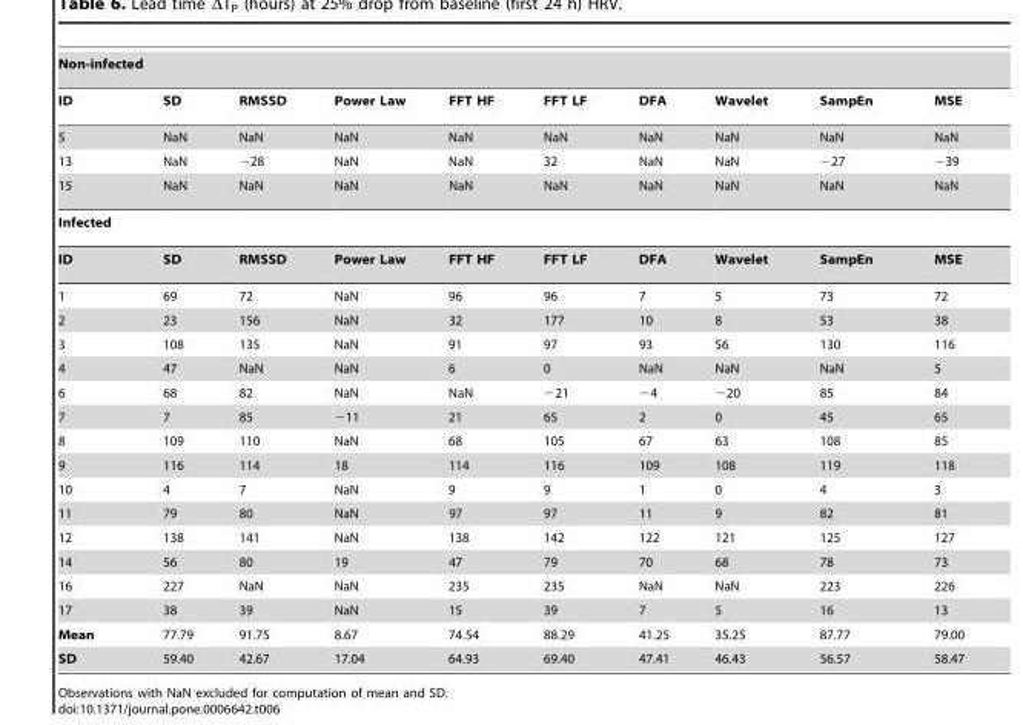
<table><tbody><tr><td colspan="10">Non-infected</td></tr><tr><td>ID</td><td>SD</td><td>RMSSD</td><td>Power Law</td><td>FFT HF</td><td>FFT LF</td><td>DFA</td><td>Wavelet</td><td>SampEn</td><td>MSE</td></tr><tr><td>5</td><td>NaN</td><td>NaN</td><td>NaN</td><td>NaN</td><td>NaN</td><td>NaN</td><td>NaN</td><td>NaN</td><td>NaN</td></tr><tr><td>13</td><td>NaN</td><td>−28</td><td>NaN</td><td>NaN</td><td>32</td><td>NaN</td><td>NaN</td><td>−27</td><td>−39</td></tr><tr><td>15</td><td>NaN</td><td>NaN</td><td>NaN</td><td>NaN</td><td>NaN</td><td>NaN</td><td>NaN</td><td>NaN</td><td>NaN</td></tr><tr><td colspan="10">Infected</td></tr><tr><td>ID</td><td>SD</td><td>RMSSD</td><td>Power Law</td><td>FFT HF</td><td>FFT LF</td><td>DFA</td><td>Wavelet</td><td>SampEn</td><td>MSE</td></tr><tr><td>1</td><td>69</td><td>72</td><td>NaN</td><td>96</td><td>96</td><td>7</td><td>5</td><td>73</td><td>72</td></tr><tr><td>2</td><td>23</td><td>156</td><td>NaN</td><td>32</td><td>177</td><td>10</td><td>8</td><td>53</td><td>38</td></tr><tr><td>3</td><td>108</td><td>135</td><td>NaN</td><td>91</td><td>97</td><td>93</td><td>56</td><td>130</td><td>116</td></tr><tr><td>4</td><td>47</td><td>NaN</td><td>NaN</td><td>6</td><td>0</td><td>NaN</td><td>NaN</td><td>NaN</td><td>5</td></tr><tr><td>6</td><td>68</td><td>82</td><td>NaN</td><td>NaN</td><td>−21</td><td>−4</td><td>−20</td><td>85</td><td>84</td></tr><tr><td>7</td><td>7</td><td>85</td><td>−11</td><td>21</td><td>65</td><td>2</td><td>0</td><td>45</td><td>65</td></tr><tr><td>8</td><td>109</td><td>110</td><td>NaN</td><td>68</td><td>105</td><td>67</td><td>63</td><td>108</td><td>85</td></tr><tr><td>9</td><td>116</td><td>114</td><td>18</td><td>114</td><td>116</td><td>109</td><td>108</td><td>119</td><td>118</td></tr><tr><td>10</td><td>4</td><td>7</td><td>NaN</td><td>9</td><td>9</td><td>1</td><td>0</td><td>4</td><td>3</td></tr><tr><td>11</td><td>79</td><td>80</td><td>NaN</td><td>97</td><td>97</td><td>11</td><td>9</td><td>82</td><td>81</td></tr><tr><td>12</td><td>138</td><td>141</td><td>NaN</td><td>138</td><td>142</td><td>122</td><td>121</td><td>125</td><td>127</td></tr><tr><td>14</td><td>56</td><td>80</td><td>19</td><td>47</td><td>79</td><td>70</td><td>68</td><td>78</td><td>73</td></tr><tr><td>16</td><td>227</td><td>NaN</td><td>NaN</td><td>235</td><td>235</td><td>NaN</td><td>NaN</td><td>223</td><td>226</td></tr><tr><td>17</td><td>38</td><td>39</td><td>NaN</td><td>15</td><td>39</td><td>7</td><td>5</td><td>16</td><td>13</td></tr><tr><td>Mean</td><td>77.79</td><td>91.75</td><td>8.67</td><td>74.54</td><td>88.29</td><td>41.25</td><td>35.25</td><td>87.77</td><td>79.00</td></tr><tr><td>SD</td><td>59.40</td><td>42.67</td><td>17.04</td><td>64.93</td><td>69.40</td><td>47.41</td><td>46.43</td><td>56.57</td><td>58.47</td></tr></tbody></table>